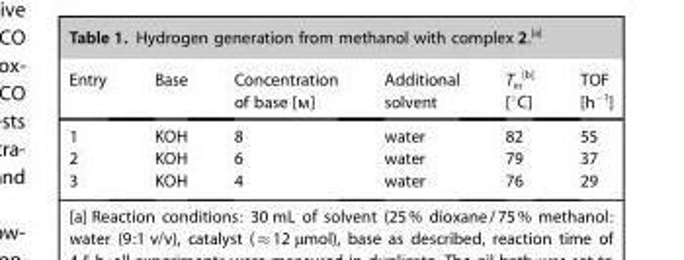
<table><thead><tr><td>Entry</td><td>Base</td><td>Concentration of base [m]</td><td>Additional solvent</td><td>T<sub>in</sub> <sup>[b]</sup> [°C]</td><td>TOF [h<sup>−1</sup>]</td></tr></thead><tbody><tr><td>1</td><td>KOH</td><td>8</td><td>water</td><td>82</td><td>55</td></tr><tr><td>2</td><td>KOH</td><td>6</td><td>water</td><td>79</td><td>37</td></tr><tr><td>3</td><td>KOH</td><td>4</td><td>water</td><td>76</td><td>29</td></tr></tbody></table>